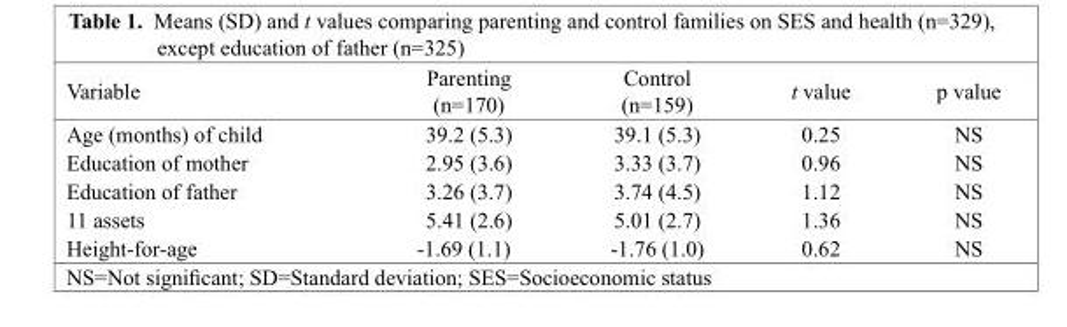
<table><thead><tr><td>Variable</td><td>Parenting (n=170)</td><td>Control (n=159)</td><td>t value</td><td>p value</td></tr></thead><tbody><tr><td>Age (months) of child</td><td>39.2 (5.3)</td><td>39.1 (5.3)</td><td>0.25</td><td>NS</td></tr><tr><td>Education of mother</td><td>2.95 (3.6)</td><td>3.33 (3.7)</td><td>0.96</td><td>NS</td></tr><tr><td>Education of father</td><td>3.26 (3.7)</td><td>3.74 (4.5)</td><td>1.12</td><td>NS</td></tr><tr><td>11 assets</td><td>5.41 (2.6)</td><td>5.01 (2.7)</td><td>1.36</td><td>NS</td></tr><tr><td>Height-for-age</td><td>-1.69 (1.1)</td><td>-1.76 (1.0)</td><td>0.62</td><td>NS</td></tr></tbody></table>